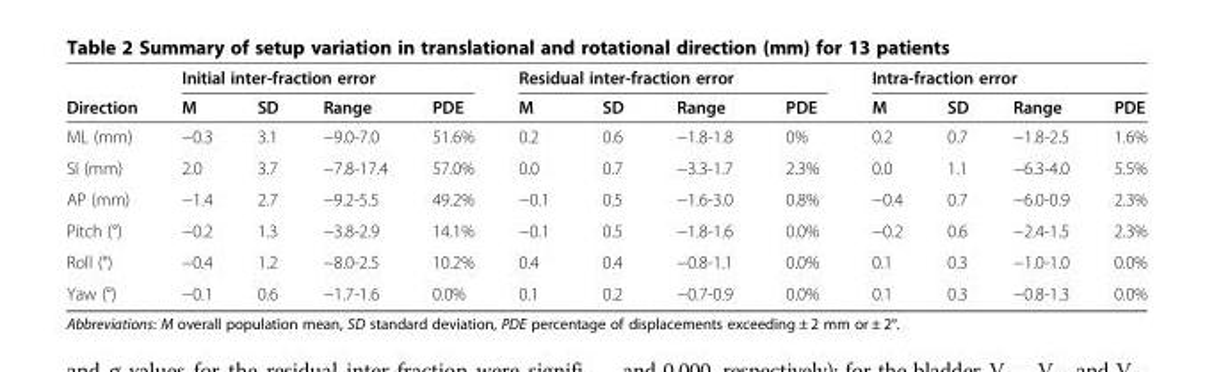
<table><thead><tr><td rowspan="2">Direction</td><td colspan="4">Initial inter-fraction error</td><td colspan="4">Residual inter-fraction error</td><td colspan="4">Intra-fraction error</td></tr><tr><td>M</td><td>SD</td><td>Range</td><td>PDE</td><td>M</td><td>SD</td><td>Range</td><td>PDE</td><td>M</td><td>SD</td><td>Range</td><td>PDE</td></tr></thead><tbody><tr><td>ML (mm)</td><td>−0.3</td><td>3.1</td><td>−9.0-7.0</td><td>51.6%</td><td>0.2</td><td>0.6</td><td>−1.8-1.8</td><td>0%</td><td>0.2</td><td>0.7</td><td>−1.8-2.5</td><td>1.6%</td></tr><tr><td>SI (mm)</td><td>2.0</td><td>3.7</td><td>−7.8-17.4</td><td>57.0%</td><td>0.0</td><td>0.7</td><td>−3.3-1.7</td><td>2.3%</td><td>0.0</td><td>1.1</td><td>−6.3-4.0</td><td>5.5%</td></tr><tr><td>AP (mm)</td><td>−1.4</td><td>2.7</td><td>−9.2-5.5</td><td>49.2%</td><td>−0.1</td><td>0.5</td><td>−1.6-3.0</td><td>0.8%</td><td>−0.4</td><td>0.7</td><td>−6.0-0.9</td><td>2.3%</td></tr><tr><td>Pitch (°)</td><td>−0.2</td><td>1.3</td><td>−3.8-2.9</td><td>14.1%</td><td>−0.1</td><td>0.5</td><td>−1.8-1.6</td><td>0.0%</td><td>−0.2</td><td>0.6</td><td>−2.4-1.5</td><td>2.3%</td></tr><tr><td>Roll (°)</td><td>−0.4</td><td>1.2</td><td>−8.0-2.5</td><td>10.2%</td><td>0.4</td><td>0.4</td><td>−0.8-1.1</td><td>0.0%</td><td>0.1</td><td>0.3</td><td>−1.0-1.0</td><td>0.0%</td></tr><tr><td>Yaw (°)</td><td>−0.1</td><td>0.6</td><td>−1.7-1.6</td><td>0.0%</td><td>0.1</td><td>0.2</td><td>−0.7-0.9</td><td>0.0%</td><td>0.1</td><td>0.3</td><td>−0.8-1.3</td><td>0.0%</td></tr></tbody></table>